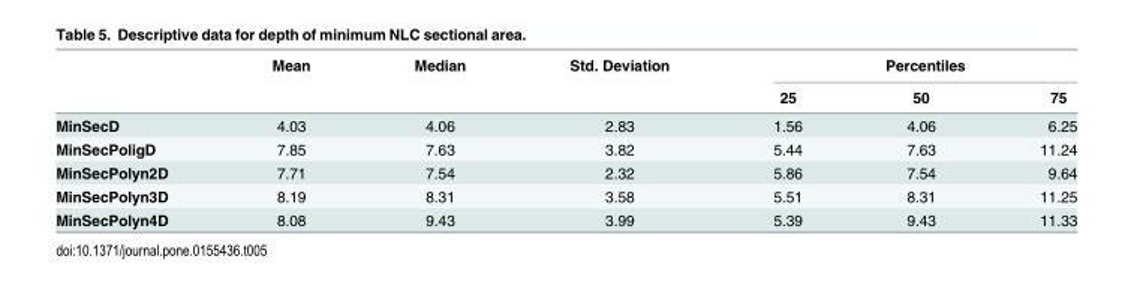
<table><thead><tr><td rowspan="2"></td><td rowspan="2">Mean</td><td rowspan="2">Median</td><td rowspan="2">Std. Deviation</td><td colspan="3">Percentiles</td></tr><tr><td>25</td><td>50</td><td>75</td></tr></thead><tbody><tr><td>MinSecD</td><td>4.03</td><td>4.06</td><td>2.83</td><td>1.56</td><td>4.06</td><td>6.25</td></tr><tr><td>MinSecPoligD</td><td>7.85</td><td>7.63</td><td>3.82</td><td>5.44</td><td>7.63</td><td>11.24</td></tr><tr><td>MinSecPolyn2D</td><td>7.71</td><td>7.54</td><td>2.32</td><td>5.86</td><td>7.54</td><td>9.64</td></tr><tr><td>MinSecPolyn3D</td><td>8.19</td><td>8.31</td><td>3.58</td><td>5.51</td><td>8.31</td><td>11.25</td></tr><tr><td>MinSecPolyn4D</td><td>8.08</td><td>9.43</td><td>3.99</td><td>5.39</td><td>9.43</td><td>11.33</td></tr></tbody></table>